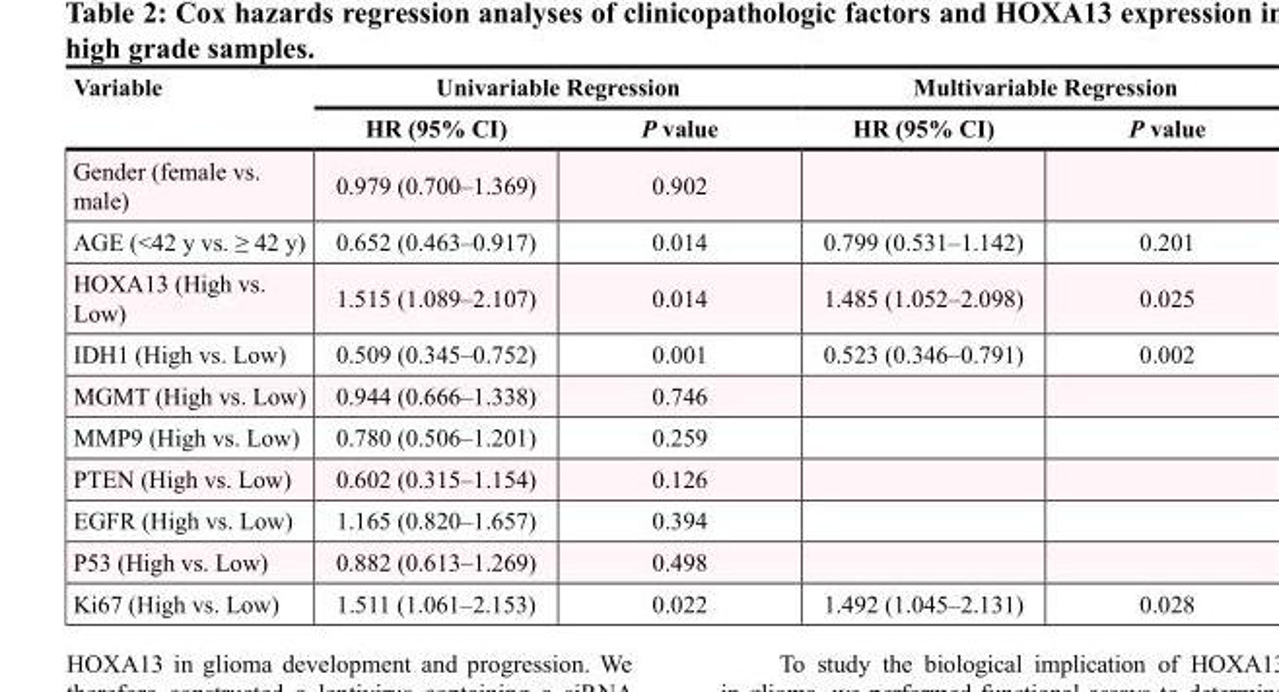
<table><thead><tr><td rowspan="2">Variable</td><td colspan="2">Univariable Regression</td><td colspan="2">Multivariable Regression</td></tr><tr><td>HR (95% CI)</td><td>P value</td><td>HR (95% CI)</td><td>P value</td></tr></thead><tbody><tr><td>Gender (female vs. male)</td><td>0.979 (0.700–1.369)</td><td>0.902</td><td></td><td></td></tr><tr><td>AGE (&lt;42 y vs. ≥ 42 y)</td><td>0.652 (0.463–0.917)</td><td>0.014</td><td>0.799 (0.531–1.142)</td><td>0.201</td></tr><tr><td>HOXA13 (High vs. Low)</td><td>1.515 (1.089–2.107)</td><td>0.014</td><td>1.485 (1.052–2.098)</td><td>0.025</td></tr><tr><td>IDH1 (High vs. Low)</td><td>0.509 (0.345–0.752)</td><td>0.001</td><td>0.523 (0.346–0.791)</td><td>0.002</td></tr><tr><td>MGMT (High vs. Low)</td><td>0.944 (0.666–1.338)</td><td>0.746</td><td></td><td></td></tr><tr><td>MMP9 (High vs. Low)</td><td>0.780 (0.506–1.201)</td><td>0.259</td><td></td><td></td></tr><tr><td>PTEN (High vs. Low)</td><td>0.602 (0.315–1.154)</td><td>0.126</td><td></td><td></td></tr><tr><td>EGFR (High vs. Low)</td><td>1.165 (0.820–1.657)</td><td>0.394</td><td></td><td></td></tr><tr><td>P53 (High vs. Low)</td><td>0.882 (0.613–1.269)</td><td>0.498</td><td></td><td></td></tr><tr><td>Ki67 (High vs. Low)</td><td>1.511 (1.061–2.153)</td><td>0.022</td><td>1.492 (1.045–2.131)</td><td>0.028</td></tr></tbody></table>